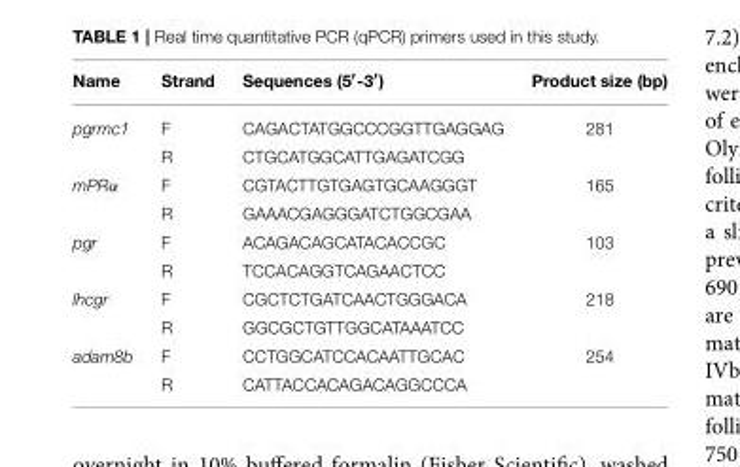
<table><thead><tr><td>Name</td><td>Strand</td><td>Sequences (5′-3′)</td><td>Product size (bp)</td></tr></thead><tbody><tr><td rowspan="2">pgrmc1</td><td>F</td><td>CAGACTATGGCCCGGTTGAGGAG</td><td>281</td></tr><tr><td>R</td><td>CTGCATGGCATTGAGATCGG</td><td></td></tr><tr><td rowspan="2">mPRα</td><td>F</td><td>CGTACTTGTGAGTGCAAGGGT</td><td>165</td></tr><tr><td>R</td><td>GAAACGAGGGATCTGGCGAA</td><td></td></tr><tr><td rowspan="2">pgr</td><td>F</td><td>ACAGACAGCATACACCGC</td><td>103</td></tr><tr><td>R</td><td>TCCACAGGTCAGAACTCC</td><td></td></tr><tr><td rowspan="2">lhcgr</td><td>F</td><td>CGCTCTGATCAACTGGGACA</td><td>218</td></tr><tr><td>R</td><td>GGCGCTGTTGGCATAAATCC</td><td></td></tr><tr><td rowspan="2">adam8b</td><td>F</td><td>CCTGGCATCCACAATTGCAC</td><td>254</td></tr><tr><td>R</td><td>CATTACCACAGACAGGCCCA</td><td></td></tr></tbody></table>